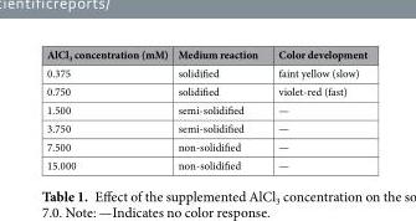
<table><thead><tr><td>AlCl<sub>3</sub> concentration (mM)</td><td>Medium reaction</td><td>Color development</td></tr></thead><tbody><tr><td>0.375</td><td>solidified</td><td>faint yellow (slow)</td></tr><tr><td>0.750</td><td>solidified</td><td>violet-red (fast)</td></tr><tr><td>1.500</td><td>semi-solidified</td><td>—</td></tr><tr><td>3.750</td><td>semi-solidified</td><td>—</td></tr><tr><td>7.500</td><td>non-solidified</td><td>—</td></tr><tr><td>15.000</td><td>non-solidified</td><td>—</td></tr></tbody></table>